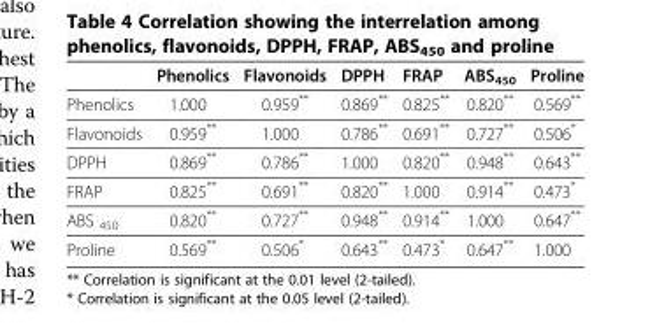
<table><thead><tr><td></td><td>Phenolics</td><td>Flavonoids</td><td>DPPH</td><td>FRAP</td><td>ABS<sub>450</sub></td><td>Proline</td></tr></thead><tbody><tr><td>Phenolics</td><td>1.000</td><td>0.959**</td><td>0.869**</td><td>0.825**</td><td>0.820**</td><td>0.569**</td></tr><tr><td>Flavonoids</td><td>0.959**</td><td>1.000</td><td>0.786**</td><td>0.691**</td><td>0.727**</td><td>0.506*</td></tr><tr><td>DPPH</td><td>0.869**</td><td>0.786**</td><td>1.000</td><td>0.820**</td><td>0.948**</td><td>0.643**</td></tr><tr><td>FRAP</td><td>0.825**</td><td>0.691**</td><td>0.820**</td><td>1.000</td><td>0.914**</td><td>0.473*</td></tr><tr><td>ABS <sub>450</sub></td><td>0.820**</td><td>0.727**</td><td>0.948**</td><td>0.914**</td><td>1.000</td><td>0.647**</td></tr><tr><td>Proline</td><td>0.569**</td><td>0.506*</td><td>0.643**</td><td>0.473*</td><td>0.647**</td><td>1.000</td></tr></tbody></table>